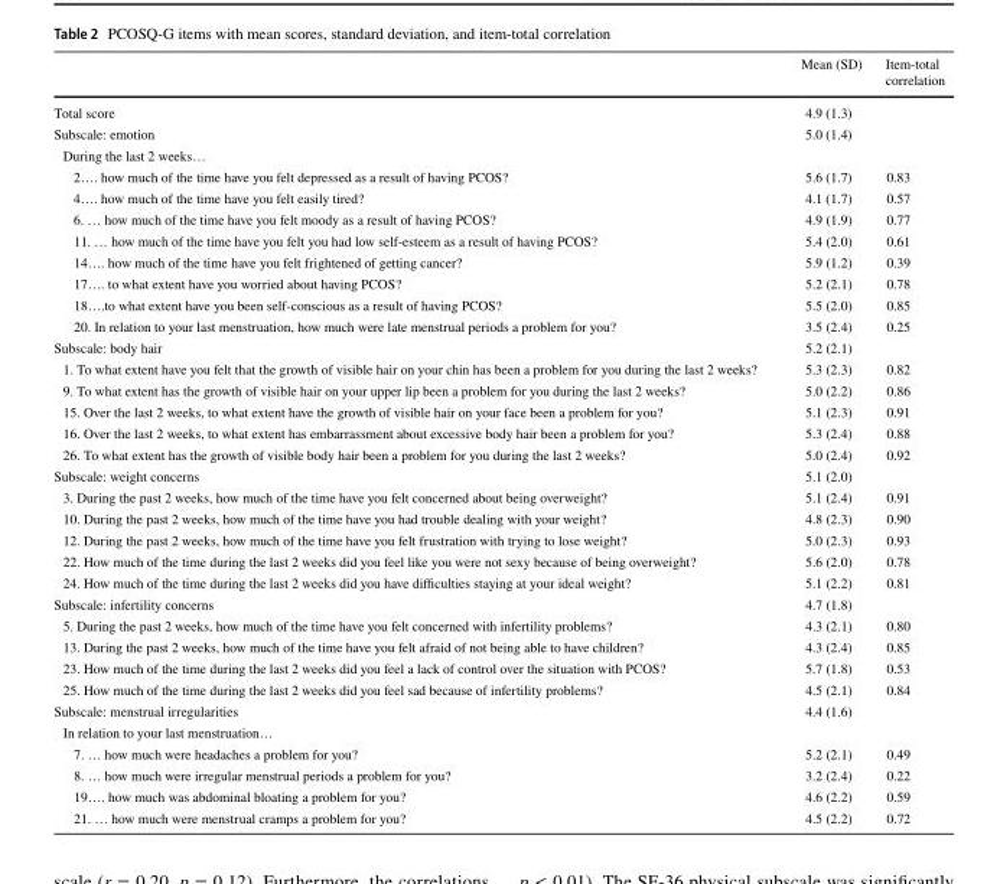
<table><thead><tr><td></td><td>Mean (SD)</td><td>Item-total correlation</td></tr></thead><tbody><tr><td>Total score</td><td>4.9 (1.3)</td><td></td></tr><tr><td>Subscale: emotion</td><td>5.0 (1.4)</td><td></td></tr><tr><td colspan="3">During the last 2 weeks…</td></tr><tr><td>2…. how much of the time have you felt depressed as a result of having PCOS?</td><td>5.6 (1.7)</td><td>0.83</td></tr><tr><td>4…. how much of the time have you felt easily tired?</td><td>4.1 (1.7)</td><td>0.57</td></tr><tr><td>6. … how much of the time have you felt moody as a result of having PCOS?</td><td>4.9 (1.9)</td><td>0.77</td></tr><tr><td>11. … how much of the time have you felt you had low self-esteem as a result of having PCOS?</td><td>5.4 (2.0)</td><td>0.61</td></tr><tr><td>14…. how much of the time have you felt frightened of getting cancer?</td><td>5.9 (1.2)</td><td>0.39</td></tr><tr><td>17…. to what extent have you worried about having PCOS?</td><td>5.2 (2.1)</td><td>0.78</td></tr><tr><td>18….to what extent have you been self-conscious as a result of having PCOS?</td><td>5.5 (2.0)</td><td>0.85</td></tr><tr><td>20. In relation to your last menstruation, how much were late menstrual periods a problem for you?</td><td>3.5 (2.4)</td><td>0.25</td></tr><tr><td>Subscale: body hair</td><td>5.2 (2.1)</td><td></td></tr><tr><td>1. To what extent have you felt that the growth of visible hair on your chin has been a problem for you during the last 2 weeks?</td><td>5.3 (2.3)</td><td>0.82</td></tr><tr><td>9. To what extent has the growth of visible hair on your upper lip been a problem for you during the last 2 weeks?</td><td>5.0 (2.2)</td><td>0.86</td></tr><tr><td>15. Over the last 2 weeks, to what extent have the growth of visible hair on your face been a problem for you?</td><td>5.1 (2.3)</td><td>0.91</td></tr><tr><td>16. Over the last 2 weeks, to what extent has embarrassment about excessive body hair been a problem for you?</td><td>5.3 (2.4)</td><td>0.88</td></tr><tr><td>26. To what extent has the growth of visible body hair been a problem for you during the last 2 weeks?</td><td>5.0 (2.4)</td><td>0.92</td></tr><tr><td>Subscale: weight concerns</td><td>5.1 (2.0)</td><td></td></tr><tr><td>3. During the past 2 weeks, how much of the time have you felt concerned about being overweight?</td><td>5.1 (2.4)</td><td>0.91</td></tr><tr><td>10. During the past 2 weeks, how much of the time have you had trouble dealing with your weight?</td><td>4.8 (2.3)</td><td>0.90</td></tr><tr><td>12. During the past 2 weeks, how much of the time have you felt frustration with trying to lose weight?</td><td>5.0 (2.3)</td><td>0.93</td></tr><tr><td>22. How much of the time during the last 2 weeks did you feel like you were not sexy because of being overweight?</td><td>5.6 (2.0)</td><td>0.78</td></tr><tr><td>24. How much of the time during the last 2 weeks did you have difficulties staying at your ideal weight?</td><td>5.1 (2.2)</td><td>0.81</td></tr><tr><td>Subscale: infertility concerns</td><td>4.7 (1.8)</td><td></td></tr><tr><td>5. During the past 2 weeks, how much of the time have you felt concerned with infertility problems?</td><td>4.3 (2.1)</td><td>0.80</td></tr><tr><td>13. During the past 2 weeks, how much of the time have you felt afraid of not being able to have children?</td><td>4.3 (2.4)</td><td>0.85</td></tr><tr><td>23. How much of the time during the last 2 weeks did you feel a lack of control over the situation with PCOS?</td><td>5.7 (1.8)</td><td>0.53</td></tr><tr><td>25. How much of the time during the last 2 weeks did you feel sad because of infertility problems?</td><td>4.5 (2.1)</td><td>0.84</td></tr><tr><td>Subscale: menstrual irregularities</td><td>4.4 (1.6)</td><td></td></tr><tr><td colspan="3">In relation to your last menstruation…</td></tr><tr><td>7. … how much were headaches a problem for you?</td><td>5.2 (2.1)</td><td>0.49</td></tr><tr><td>8. … how much were irregular menstrual periods a problem for you?</td><td>3.2 (2.4)</td><td>0.22</td></tr><tr><td>19…. how much was abdominal bloating a problem for you?</td><td>4.6 (2.2)</td><td>0.59</td></tr><tr><td>21. … how much were menstrual cramps a problem for you?</td><td>4.5 (2.2)</td><td>0.72</td></tr></tbody></table>